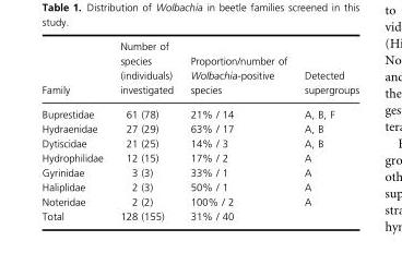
<table><thead><tr><td>Family</td><td>Number of species (individuals) investigated</td><td>Proportion/number of Wolbachia-positive species</td><td>Detected supergroups</td></tr></thead><tbody><tr><td>Buprestidae</td><td>61 (78)</td><td>21% / 14</td><td>A, B, F</td></tr><tr><td>Hydraenidae</td><td>27 (29)</td><td>63% / 17</td><td>A, B</td></tr><tr><td>Dytiscidae</td><td>21 (25)</td><td>14% / 3</td><td>A, B</td></tr><tr><td>Hydrophilidae</td><td>12 (15)</td><td>17% / 2</td><td>A</td></tr><tr><td>Gyrinidae</td><td>3 (3)</td><td>33% / 1</td><td>A</td></tr><tr><td>Haliplidae</td><td>2 (3)</td><td>50% / 1</td><td>A</td></tr><tr><td>Noteridae</td><td>2 (2)</td><td>100% / 2</td><td>A</td></tr><tr><td>Total</td><td>128 (155)</td><td>31% / 40</td><td></td></tr></tbody></table>